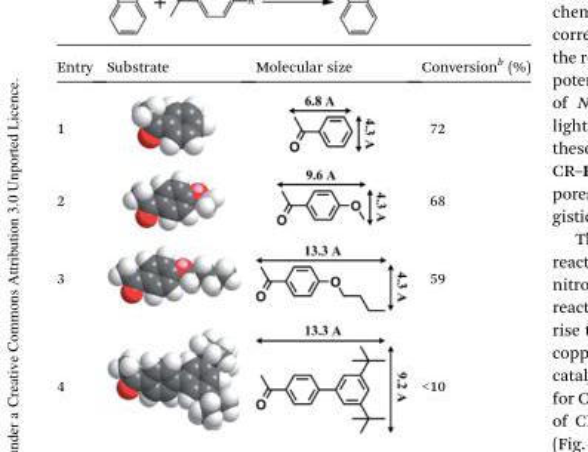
<table><thead><tr><td>Entry</td><td>Substrate</td><td>Molecular size</td><td>Conversion<sup>b</sup> (%)</td></tr></thead><tbody><tr><td>1</td><td></td><td></td><td>72</td></tr><tr><td>2</td><td></td><td></td><td>68</td></tr><tr><td>3</td><td></td><td></td><td>59</td></tr><tr><td>4</td><td></td><td></td><td>&lt;10</td></tr></tbody></table>